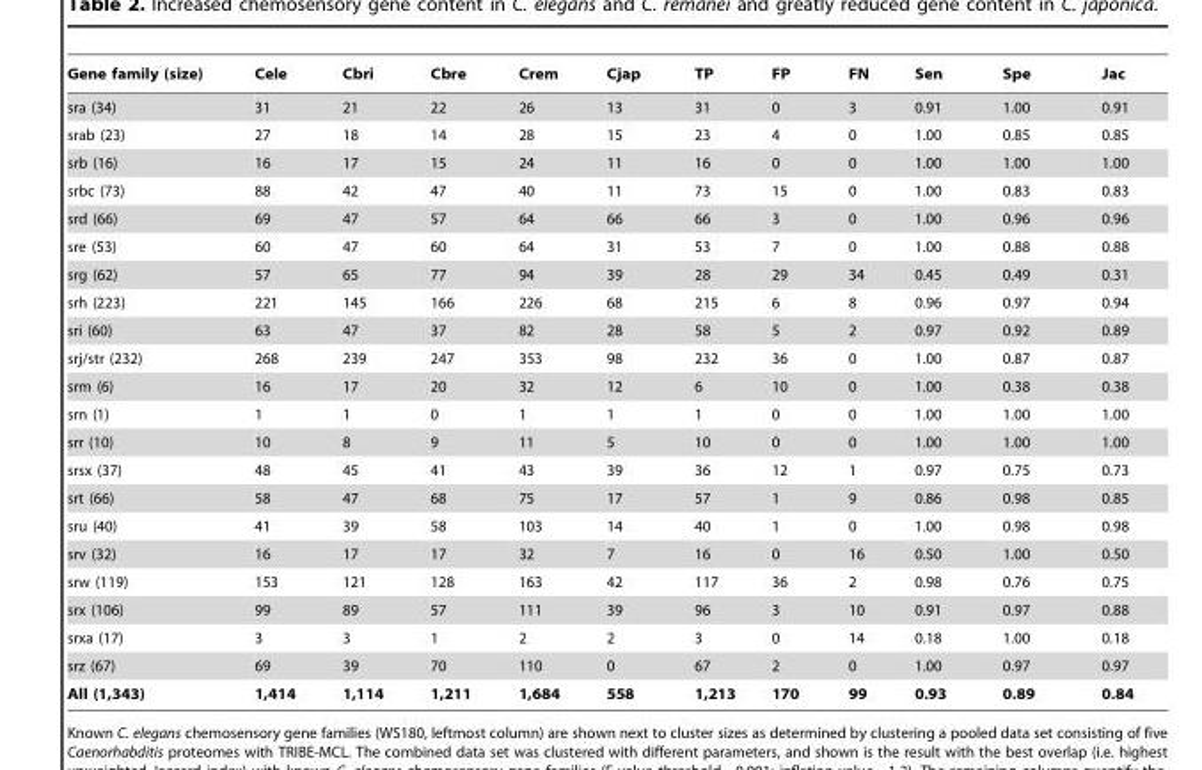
<table><thead><tr><td>Gene family (size)</td><td>Cele</td><td>Cbri</td><td>Cbre</td><td>Crem</td><td>Cjap</td><td>TP</td><td>FP</td><td>FN</td><td>Sen</td><td>Spe</td><td>Jac</td></tr></thead><tbody><tr><td>sra (34)</td><td>31</td><td>21</td><td>22</td><td>26</td><td>13</td><td>31</td><td>0</td><td>3</td><td>0.91</td><td>1.00</td><td>0.91</td></tr><tr><td>srab (23)</td><td>27</td><td>18</td><td>14</td><td>28</td><td>15</td><td>23</td><td>4</td><td>0</td><td>1.00</td><td>0.85</td><td>0.85</td></tr><tr><td>srb (16)</td><td>16</td><td>17</td><td>15</td><td>24</td><td>11</td><td>16</td><td>0</td><td>0</td><td>1.00</td><td>1.00</td><td>1.00</td></tr><tr><td>srbc (73)</td><td>88</td><td>42</td><td>47</td><td>40</td><td>11</td><td>73</td><td>15</td><td>0</td><td>1.00</td><td>0.83</td><td>0.83</td></tr><tr><td>srd (66)</td><td>69</td><td>47</td><td>57</td><td>64</td><td>66</td><td>66</td><td>3</td><td>0</td><td>1.00</td><td>0.96</td><td>0.96</td></tr><tr><td>sre (53)</td><td>60</td><td>47</td><td>60</td><td>64</td><td>31</td><td>53</td><td>7</td><td>0</td><td>1.00</td><td>0.88</td><td>0.88</td></tr><tr><td>srg (62)</td><td>57</td><td>65</td><td>77</td><td>94</td><td>39</td><td>28</td><td>29</td><td>34</td><td>0.45</td><td>0.49</td><td>0.31</td></tr><tr><td>srh (223)</td><td>221</td><td>145</td><td>166</td><td>226</td><td>68</td><td>215</td><td>6</td><td>8</td><td>0.96</td><td>0.97</td><td>0.94</td></tr><tr><td>sri (60)</td><td>63</td><td>47</td><td>37</td><td>82</td><td>28</td><td>58</td><td>5</td><td>2</td><td>0.97</td><td>0.92</td><td>0.89</td></tr><tr><td>srj/str (232)</td><td>268</td><td>239</td><td>247</td><td>353</td><td>98</td><td>232</td><td>36</td><td>0</td><td>1.00</td><td>0.87</td><td>0.87</td></tr><tr><td>srm (6)</td><td>16</td><td>17</td><td>20</td><td>32</td><td>12</td><td>6</td><td>10</td><td>0</td><td>1.00</td><td>0.38</td><td>0.38</td></tr><tr><td>srn (1)</td><td>1</td><td>1</td><td>0</td><td>1</td><td>1</td><td>1</td><td>0</td><td>0</td><td>1.00</td><td>1.00</td><td>1.00</td></tr><tr><td>srr (10)</td><td>10</td><td>8</td><td>9</td><td>11</td><td>5</td><td>10</td><td>0</td><td>0</td><td>1.00</td><td>1.00</td><td>1.00</td></tr><tr><td>srsx (37)</td><td>48</td><td>45</td><td>41</td><td>43</td><td>39</td><td>36</td><td>12</td><td>1</td><td>0.97</td><td>0.75</td><td>0.73</td></tr><tr><td>srt (66)</td><td>58</td><td>47</td><td>68</td><td>75</td><td>17</td><td>57</td><td>1</td><td>9</td><td>0.86</td><td>0.98</td><td>0.85</td></tr><tr><td>sru (40)</td><td>41</td><td>39</td><td>58</td><td>103</td><td>14</td><td>40</td><td>1</td><td>0</td><td>1.00</td><td>0.98</td><td>0.98</td></tr><tr><td>srv (32)</td><td>16</td><td>17</td><td>17</td><td>32</td><td>7</td><td>16</td><td>0</td><td>16</td><td>0.50</td><td>1.00</td><td>0.50</td></tr><tr><td>srw (119)</td><td>153</td><td>121</td><td>128</td><td>163</td><td>42</td><td>117</td><td>36</td><td>2</td><td>0.98</td><td>0.76</td><td>0.75</td></tr><tr><td>srx (106)</td><td>99</td><td>89</td><td>57</td><td>111</td><td>39</td><td>96</td><td>3</td><td>10</td><td>0.91</td><td>0.97</td><td>0.88</td></tr><tr><td>srxa (17)</td><td>3</td><td>3</td><td>1</td><td>2</td><td>2</td><td>3</td><td>0</td><td>14</td><td>0.18</td><td>1.00</td><td>0.18</td></tr><tr><td>srz (67)</td><td>69</td><td>39</td><td>70</td><td>110</td><td>0</td><td>67</td><td>2</td><td>0</td><td>1.00</td><td>0.97</td><td>0.97</td></tr><tr><td>All (1,343)</td><td>1,414</td><td>1,114</td><td>1,211</td><td>1,684</td><td>558</td><td>1,213</td><td>170</td><td>99</td><td>0.93</td><td>0.89</td><td>0.84</td></tr></tbody></table>